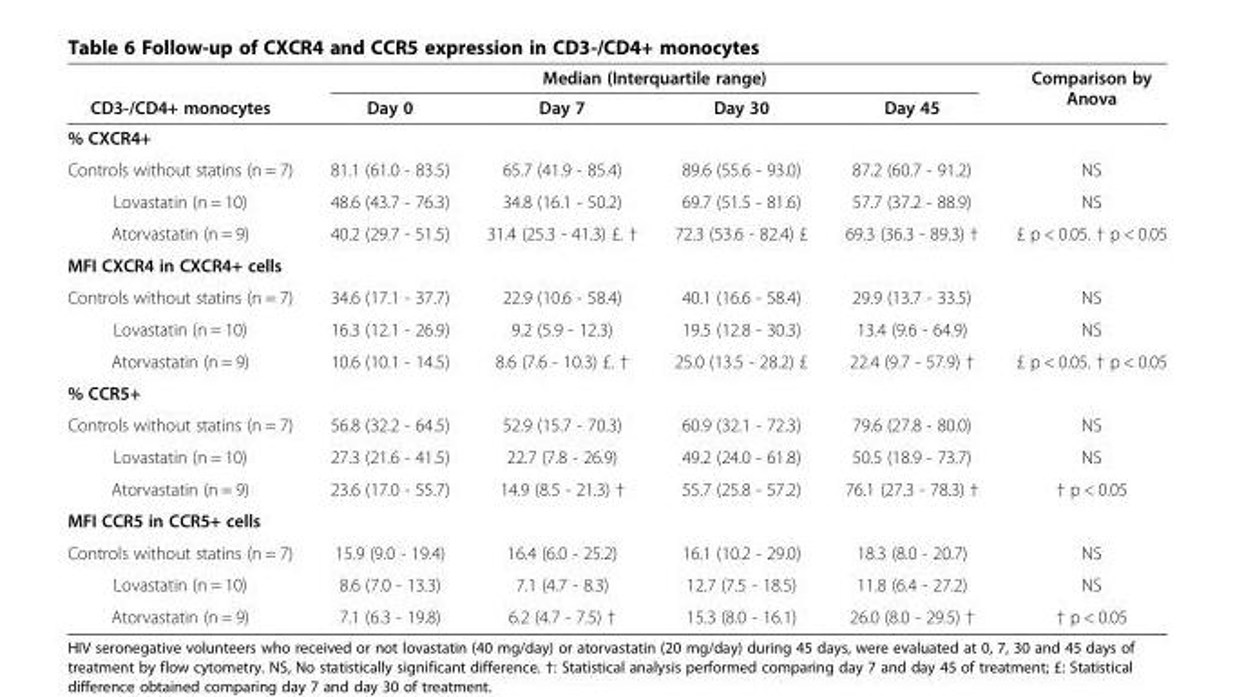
<table><thead><tr><td rowspan="2">CD3-/CD4+ monocytes</td><td colspan="4">Median (Interquartile range)</td><td rowspan="2">Comparison by Anova</td></tr><tr><td>Day 0</td><td>Day 7</td><td>Day 30</td><td>Day 45</td></tr></thead><tbody><tr><td colspan="6">% CXCR4+</td></tr><tr><td>Controls without statins (n = 7)</td><td>81.1 (61.0 - 83.5)</td><td>65.7 (41.9 - 85.4)</td><td>89.6 (55.6 - 93.0)</td><td>87.2 (60.7 - 91.2)</td><td>NS</td></tr><tr><td>Lovastatin (n = 10)</td><td>48.6 (43.7 - 76.3)</td><td>34.8 (16.1 - 50.2)</td><td>69.7 (51.5 - 81.6)</td><td>57.7 (37.2 - 88.9)</td><td>NS</td></tr><tr><td>Atorvastatin (n = 9)</td><td>40.2 (29.7 - 51.5)</td><td>31.4 (25.3 - 41.3) £. †</td><td>72.3 (53.6 - 82.4) £</td><td>69.3 (36.3 - 89.3) †</td><td>£ p &lt; 0.05. † p &lt; 0.05</td></tr><tr><td colspan="6">MFI CXCR4 in CXCR4+ cells</td></tr><tr><td>Controls without statins (n = 7)</td><td>34.6 (17.1 - 37.7)</td><td>22.9 (10.6 - 58.4)</td><td>40.1 (16.6 - 58.4)</td><td>29.9 (13.7 - 33.5)</td><td>NS</td></tr><tr><td>Lovastatin (n = 10)</td><td>16.3 (12.1 - 26.9)</td><td>9.2 (5.9 - 12.3)</td><td>19.5 (12.8 - 30.3)</td><td>13.4 (9.6 - 64.9)</td><td>NS</td></tr><tr><td>Atorvastatin (n = 9)</td><td>10.6 (10.1 - 14.5)</td><td>8.6 (7.6 - 10.3) £. †</td><td>25.0 (13.5 - 28.2) £</td><td>22.4 (9.7 - 57.9) †</td><td>£ p &lt; 0.05. † p &lt; 0.05</td></tr><tr><td colspan="6">% CCR5+</td></tr><tr><td>Controls without statins (n = 7)</td><td>56.8 (32.2 - 64.5)</td><td>52.9 (15.7 - 70.3)</td><td>60.9 (32.1 - 72.3)</td><td>79.6 (27.8 - 80.0)</td><td>NS</td></tr><tr><td>Lovastatin (n = 10)</td><td>27.3 (21.6 - 41.5)</td><td>22.7 (7.8 - 26.9)</td><td>49.2 (24.0 - 61.8)</td><td>50.5 (18.9 - 73.7)</td><td>NS</td></tr><tr><td>Atorvastatin (n = 9)</td><td>23.6 (17.0 - 55.7)</td><td>14.9 (8.5 - 21.3) †</td><td>55.7 (25.8 - 57.2)</td><td>76.1 (27.3 - 78.3) †</td><td>† p &lt; 0.05</td></tr><tr><td colspan="6">MFI CCR5 in CCR5+ cells</td></tr><tr><td>Controls without statins (n = 7)</td><td>15.9 (9.0 - 19.4)</td><td>16.4 (6.0 - 25.2)</td><td>16.1 (10.2 - 29.0)</td><td>18.3 (8.0 - 20.7)</td><td>NS</td></tr><tr><td>Lovastatin (n = 10)</td><td>8.6 (7.0 - 13.3)</td><td>7.1 (4.7 - 8.3)</td><td>12.7 (7.5 - 18.5)</td><td>11.8 (6.4 - 27.2)</td><td>NS</td></tr><tr><td>Atorvastatin (n = 9)</td><td>7.1 (6.3 - 19.8)</td><td>6.2 (4.7 - 7.5) †</td><td>15.3 (8.0 - 16.1)</td><td>26.0 (8.0 - 29.5) †</td><td>† p &lt; 0.05</td></tr></tbody></table>